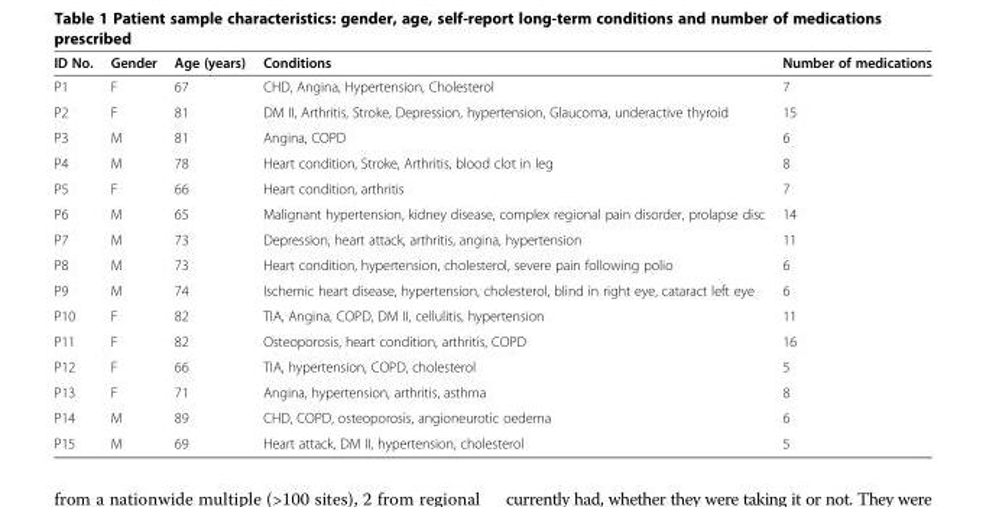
<table><thead><tr><td>ID No.</td><td>Gender</td><td>Age (years)</td><td>Conditions</td><td>Number of medications</td></tr></thead><tbody><tr><td>P1</td><td>F</td><td>67</td><td>CHD, Angina, Hypertension, Cholesterol</td><td>7</td></tr><tr><td>P2</td><td>F</td><td>81</td><td>DM II, Arthritis, Stroke, Depression, hypertension, Glaucoma, underactive thyroid</td><td>15</td></tr><tr><td>P3</td><td>M</td><td>81</td><td>Angina, COPD</td><td>6</td></tr><tr><td>P4</td><td>M</td><td>78</td><td>Heart condition, Stroke, Arthritis, blood clot in leg</td><td>8</td></tr><tr><td>P5</td><td>F</td><td>66</td><td>Heart condition, arthritis</td><td>7</td></tr><tr><td>P6</td><td>M</td><td>65</td><td>Malignant hypertension, kidney disease, complex regional pain disorder, prolapse disc</td><td>14</td></tr><tr><td>P7</td><td>M</td><td>73</td><td>Depression, heart attack, arthritis, angina, hypertension</td><td>11</td></tr><tr><td>P8</td><td>M</td><td>73</td><td>Heart condition, hypertension, cholesterol, severe pain following polio</td><td>6</td></tr><tr><td>P9</td><td>M</td><td>74</td><td>Ischemic heart disease, hypertension, cholesterol, blind in right eye, cataract left eye</td><td>6</td></tr><tr><td>P10</td><td>F</td><td>82</td><td>TIA, Angina, COPD, DM II, cellulitis, hypertension</td><td>11</td></tr><tr><td>P11</td><td>F</td><td>82</td><td>Osteoporosis, heart condition, arthritis, COPD</td><td>16</td></tr><tr><td>P12</td><td>F</td><td>66</td><td>TIA, hypertension, COPD, cholesterol</td><td>5</td></tr><tr><td>P13</td><td>F</td><td>71</td><td>Angina, hypertension, arthritis, asthma</td><td>8</td></tr><tr><td>P14</td><td>M</td><td>89</td><td>CHD, COPD, osteoporosis, angioneurotic oedema</td><td>6</td></tr><tr><td>P15</td><td>M</td><td>69</td><td>Heart attack, DM II, hypertension, cholesterol</td><td>5</td></tr></tbody></table>